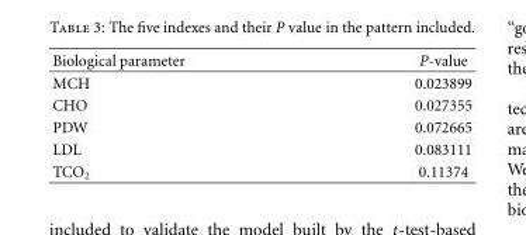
<table><thead><tr><td>Biological parameter</td><td>P-value</td></tr></thead><tbody><tr><td>MCH</td><td>0.023899</td></tr><tr><td>CHO</td><td>0.027355</td></tr><tr><td>PDW</td><td>0.072665</td></tr><tr><td>LDL</td><td>0.083111</td></tr><tr><td>TCO<sub>2</sub></td><td>0.11374</td></tr></tbody></table>